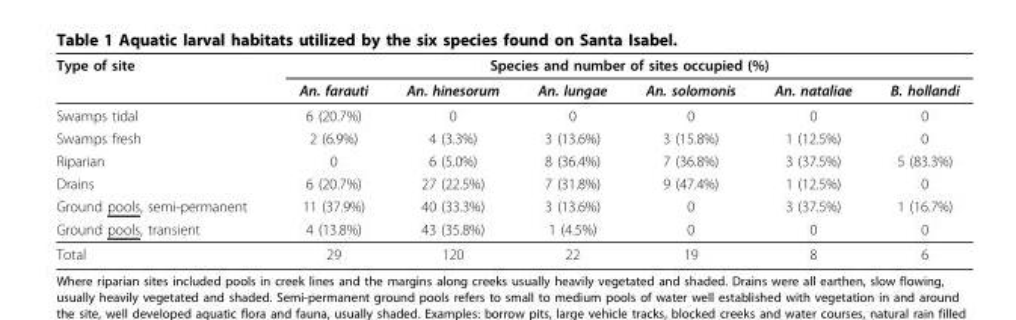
<table><thead><tr><td rowspan="2">Type of site</td><td colspan="6">Species and number of sites occupied (%)</td></tr><tr><td>An. farauti</td><td>An. hinesorum</td><td>An. lungae</td><td>An. solomonis</td><td>An. nataliae</td><td>B. hollandi</td></tr></thead><tbody><tr><td>Swamps tidal</td><td>6 (20.7%)</td><td>0</td><td>0</td><td>0</td><td>0</td><td>0</td></tr><tr><td>Swamps fresh</td><td>2 (6.9%)</td><td>4 (3.3%)</td><td>3 (13.6%)</td><td>3 (15.8%)</td><td>1 (12.5%)</td><td>0</td></tr><tr><td>Riparian</td><td>0</td><td>6 (5.0%)</td><td>8 (36.4%)</td><td>7 (36.8%)</td><td>3 (37.5%)</td><td>5 (83.3%)</td></tr><tr><td>Drains</td><td>6 (20.7%)</td><td>27 (22.5%)</td><td>7 (31.8%)</td><td>9 (47.4%)</td><td>1 (12.5%)</td><td>0</td></tr><tr><td>Ground pools, semi-permanent</td><td>11 (37.9%)</td><td>40 (33.3%)</td><td>3 (13.6%)</td><td>0</td><td>3 (37.5%)</td><td>1 (16.7%)</td></tr><tr><td>Ground pools, transient</td><td>4 (13.8%)</td><td>43 (35.8%)</td><td>1 (4.5%)</td><td>0</td><td>0</td><td>0</td></tr><tr><td>Total</td><td>29</td><td>120</td><td>22</td><td>19</td><td>8</td><td>6</td></tr></tbody></table>